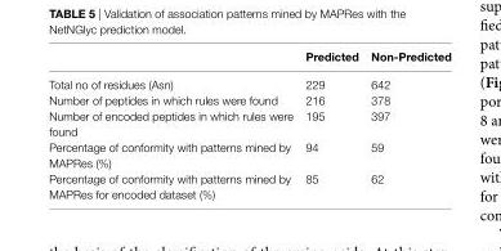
<table><thead><tr><td></td><td>Predicted</td><td>non-Predicted</td></tr></thead><tbody><tr><td>Total no of residues (Asn)</td><td>229</td><td>642</td></tr><tr><td>Number of peptides in which rules were found</td><td>216</td><td>378</td></tr><tr><td>Number of encoded peptides in which rules were found</td><td>195</td><td>397</td></tr><tr><td>Percentage of conformity with patterns mined by MAPRes (%)</td><td>94</td><td>59</td></tr><tr><td>Percentage of conformity with patterns mined by MAPRes for encoded dataset (%)</td><td>85</td><td>62</td></tr></tbody></table>